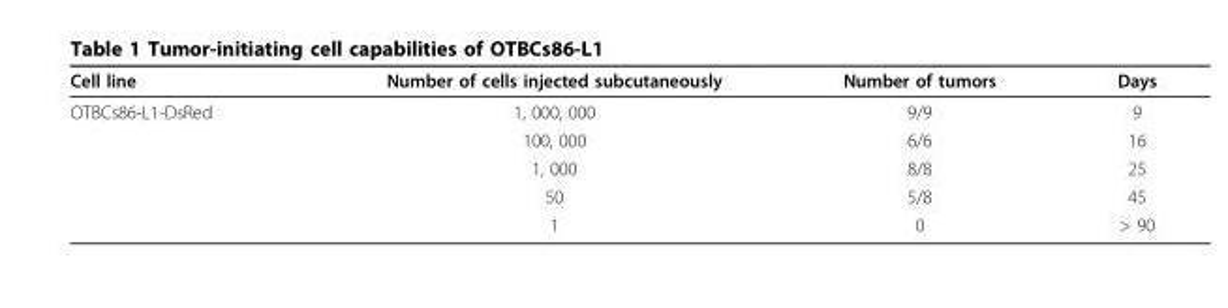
<table><thead><tr><td>Cell line</td><td>Number of cells injected subcutaneously</td><td>Number of tumors</td><td>Days</td></tr></thead><tbody><tr><td rowspan="5">OTBCs86-L1-DsRed</td><td>1, 000, 000</td><td>9/9</td><td>9</td></tr><tr><td>100, 000</td><td>6/6</td><td>16</td></tr><tr><td>1, 000</td><td>8/8</td><td>25</td></tr><tr><td>50</td><td>5/8</td><td>45</td></tr><tr><td>1</td><td>0</td><td>&gt; 90</td></tr></tbody></table>